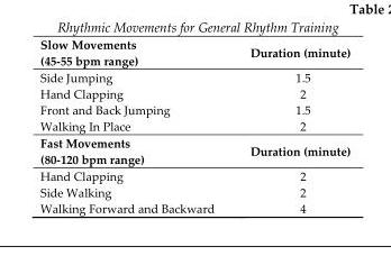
<table><tbody><tr><td>Slow Movements (45-55 bpm range)</td><td>Duration (minute)</td></tr><tr><td>Side Jumping</td><td>1.5</td></tr><tr><td>Hand Clapping</td><td>2</td></tr><tr><td>Front and Back Jumping</td><td>1.5</td></tr><tr><td>Walking In Place</td><td>2</td></tr><tr><td>Fast Movements (80-120 bpm range)</td><td>Duration (minute)</td></tr><tr><td>Hand Clapping</td><td>2</td></tr><tr><td>Side Walking</td><td>2</td></tr><tr><td>Walking Forward and Backward</td><td>4</td></tr></tbody></table>